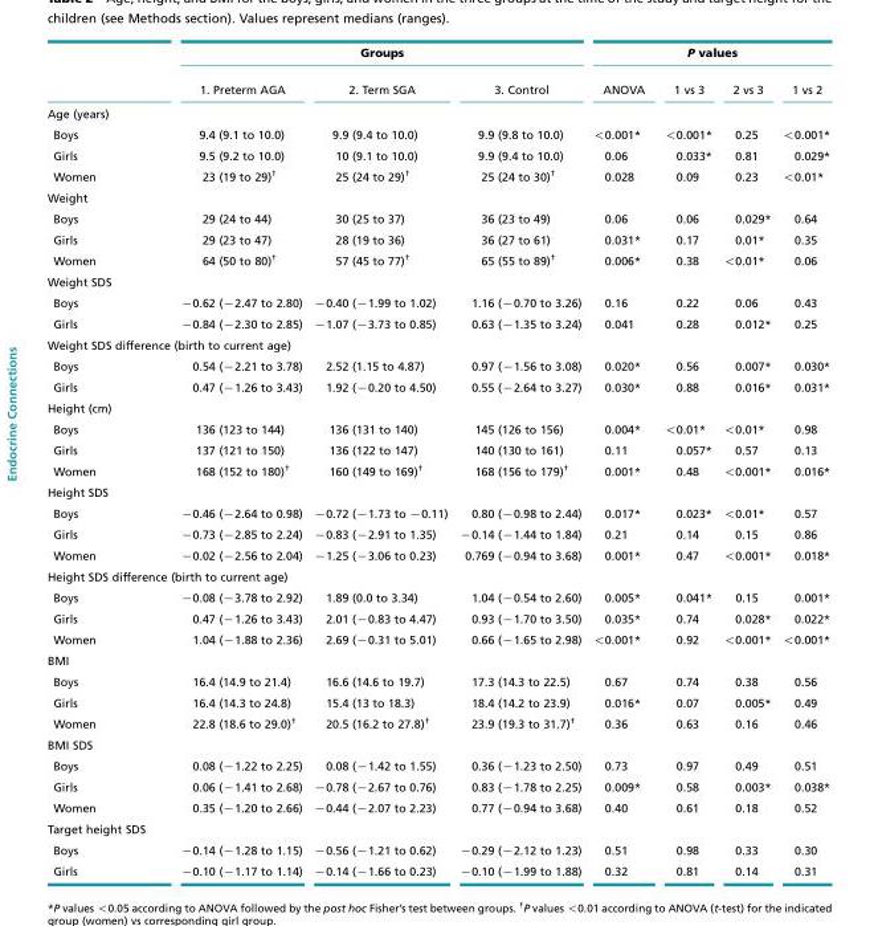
<table><thead><tr><td rowspan="2"></td><td colspan="3">Groups</td><td colspan="4">P values</td></tr><tr><td>1. Preterm AGA</td><td>2. Term SGA</td><td>3. Control</td><td>ANOVA</td><td>1 vs 3</td><td>2 vs 3</td><td>1 vs 2</td></tr></thead><tbody><tr><td colspan="8">Age (years)</td></tr><tr><td>Boys</td><td>9.4 (9.1 to 10.0)</td><td>9.9 (9.4 to 10.0)</td><td>9.9 (9.8 to 10.0)</td><td>&lt;0.001*</td><td>&lt;0.001*</td><td>0.25</td><td>&lt;0.001*</td></tr><tr><td>Girls</td><td>9.5 (9.2 to 10.0)</td><td>10 (9.1 to 10.0)</td><td>9.9 (9.4 to 10.0)</td><td>0.06</td><td>0.033*</td><td>0.81</td><td>0.029*</td></tr><tr><td>Women</td><td>23 (19 to 29)<sup>†</sup></td><td>25 (24 to 29)<sup>†</sup></td><td>25 (24 to 30)<sup>†</sup></td><td>0.028</td><td>0.09</td><td>0.23</td><td>&lt;0.01*</td></tr><tr><td colspan="8">Weight</td></tr><tr><td>Boys</td><td>29 (24 to 44)</td><td>30 (25 to 37)</td><td>36 (23 to 49)</td><td>0.06</td><td>0.06</td><td>0.029*</td><td>0.64</td></tr><tr><td>Girls</td><td>29 (23 to 47)</td><td>28 (19 to 36)</td><td>36 (27 to 61)</td><td>0.031*</td><td>0.17</td><td>0.01*</td><td>0.35</td></tr><tr><td>Women</td><td>64 (50 to 80)<sup>†</sup></td><td>57 (45 to 77)<sup>†</sup></td><td>65 (55 to 89)<sup>†</sup></td><td>0.006*</td><td>0.38</td><td>&lt;0.01*</td><td>0.06</td></tr><tr><td colspan="8">Weight SDS</td></tr><tr><td>Boys</td><td>−0.62 (−2.47 to 2.80)</td><td>−0.40 (−1.99 to 1.02)</td><td>1.16 (−0.70 to 3.26)</td><td>0.16</td><td>0.22</td><td>0.06</td><td>0.43</td></tr><tr><td>Girls</td><td>−0.84 (−2.30 to 2.85)</td><td>−1.07 (−3.73 to 0.85)</td><td>0.63 (−1.35 to 3.24)</td><td>0.041</td><td>0.28</td><td>0.012*</td><td>0.25</td></tr><tr><td colspan="8">Weight SDS difference (birth to current age)</td></tr><tr><td>Boys</td><td>0.54 (−2.21 to 3.78)</td><td>2.52 (1.15 to 4.87)</td><td>0.97 (−1.56 to 3.08)</td><td>0.020*</td><td>0.56</td><td>0.007*</td><td>0.030*</td></tr><tr><td>Girls</td><td>0.47 (−1.26 to 3.43)</td><td>1.92 (−0.20 to 4.50)</td><td>0.55 (−2.64 to 3.27)</td><td>0.030*</td><td>0.88</td><td>0.016*</td><td>0.031*</td></tr><tr><td colspan="8">Height (cm)</td></tr><tr><td>Boys</td><td>136 (123 to 144)</td><td>136 (131 to 140)</td><td>145 (126 to 156)</td><td>0.004*</td><td>&lt;0.01*</td><td>&lt;0.01*</td><td>0.98</td></tr><tr><td>Girls</td><td>137 (121 to 150)</td><td>136 (122 to 147)</td><td>140 (130 to 161)</td><td>0.11</td><td>0.057*</td><td>0.57</td><td>0.13</td></tr><tr><td>Women</td><td>168 (152 to 180)<sup>†</sup></td><td>160 (149 to 169)<sup>†</sup></td><td>168 (156 to 179)<sup>†</sup></td><td>0.001*</td><td>0.48</td><td>&lt;0.001*</td><td>0.016*</td></tr><tr><td colspan="8">Height SDS</td></tr><tr><td>Boys</td><td>−0.46 (−2.64 to 0.98)</td><td>−0.72 (−1.73 to −0.11)</td><td>0.80 (−0.98 to 2.44)</td><td>0.017*</td><td>0.023*</td><td>&lt;0.01*</td><td>0.57</td></tr><tr><td>Girls</td><td>−0.73 (−2.85 to 2.24)</td><td>−0.83 (−2.91 to 1.35)</td><td>−0.14 (−1.44 to 1.84)</td><td>0.21</td><td>0.14</td><td>0.15</td><td>0.86</td></tr><tr><td>Women</td><td>−0.02 (−2.56 to 2.04)</td><td>−1.25 (−3.06 to 0.23)</td><td>0.769 (−0.94 to 3.68)</td><td>0.001*</td><td>0.47</td><td>&lt;0.001*</td><td>0.018*</td></tr><tr><td colspan="8">Height SDS difference (birth to current age)</td></tr><tr><td>Boys</td><td>−0.08 (−3.78 to 2.92)</td><td>1.89 (0.0 to 3.34)</td><td>1.04 (−0.54 to 2.60)</td><td>0.005*</td><td>0.041*</td><td>0.15</td><td>0.001*</td></tr><tr><td>Girls</td><td>0.47 (−1.26 to 3.43)</td><td>2.01 (−0.83 to 4.47)</td><td>0.93 (−1.70 to 3.50)</td><td>0.035*</td><td>0.74</td><td>0.028*</td><td>0.022*</td></tr><tr><td>Women</td><td>1.04 (−1.88 to 2.36)</td><td>2.69 (−0.31 to 5.01)</td><td>0.66 (−1.65 to 2.98)</td><td>&lt;0.001*</td><td>0.92</td><td>&lt;0.001*</td><td>&lt;0.001*</td></tr><tr><td colspan="8">BMI</td></tr><tr><td>Boys</td><td>16.4 (14.9 to 21.4)</td><td>16.6 (14.6 to 19.7)</td><td>17.3 (14.3 to 22.5)</td><td>0.67</td><td>0.74</td><td>0.38</td><td>0.56</td></tr><tr><td>Girls</td><td>16.4 (14.3 to 24.8)</td><td>15.4 (13 to 18.3)</td><td>18.4 (14.2 to 23.9)</td><td>0.016*</td><td>0.07</td><td>0.005*</td><td>0.49</td></tr><tr><td>Women</td><td>22.8 (18.6 to 29.0)<sup>†</sup></td><td>20.5 (16.2 to 27.8)<sup>†</sup></td><td>23.9 (19.3 to 31.7)<sup>†</sup></td><td>0.36</td><td>0.63</td><td>0.16</td><td>0.46</td></tr><tr><td colspan="8">BMI SDS</td></tr><tr><td>Boys</td><td>0.08 (−1.22 to 2.25)</td><td>0.08 (−1.42 to 1.55)</td><td>0.36 (−1.23 to 2.50)</td><td>0.73</td><td>0.97</td><td>0.49</td><td>0.51</td></tr><tr><td>Girls</td><td>0.06 (−1.41 to 2.68)</td><td>−0.78 (−2.67 to 0.76)</td><td>0.83 (−1.78 to 2.25)</td><td>0.009*</td><td>0.58</td><td>0.003*</td><td>0.038*</td></tr><tr><td>Women</td><td>0.35 (−1.20 to 2.66)</td><td>−0.44 (−2.07 to 2.23)</td><td>0.77 (−0.94 to 3.68)</td><td>0.40</td><td>0.61</td><td>0.18</td><td>0.52</td></tr><tr><td colspan="8">Target height SDS</td></tr><tr><td>Boys</td><td>−0.14 (−1.28 to 1.15)</td><td>−0.56 (−1.21 to 0.62)</td><td>−0.29 (−2.12 to 1.23)</td><td>0.51</td><td>0.98</td><td>0.33</td><td>0.30</td></tr><tr><td>Girls</td><td>−0.10 (−1.17 to 1.14)</td><td>−0.14 (−1.66 to 0.23)</td><td>−0.10 (−1.99 to 1.88)</td><td>0.32</td><td>0.81</td><td>0.14</td><td>0.31</td></tr></tbody></table>